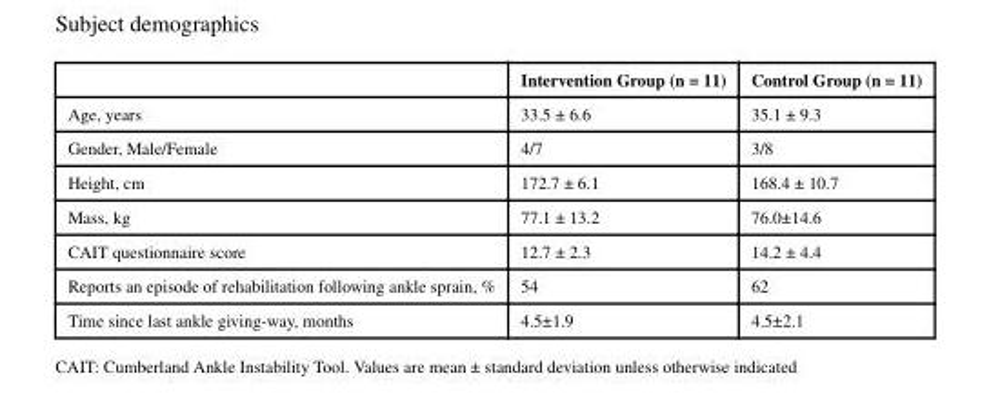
<table><thead><tr><td></td><td>Intervention Group (n = 11)</td><td>Control Group (n = 11)</td></tr></thead><tbody><tr><td>Age, years</td><td>33.5 ± 6.6</td><td>35.1 ± 9.3</td></tr><tr><td>Gender, Male/Female</td><td>4/7</td><td>3/8</td></tr><tr><td>Height, cm</td><td>172.7 ± 6.1</td><td>168.4 ± 10.7</td></tr><tr><td>Mass, kg</td><td>77.1 ± 13.2</td><td>76.0±14.6</td></tr><tr><td>CAIT questionnaire score</td><td>12.7 ± 2.3</td><td>14.2 ± 4.4</td></tr><tr><td>Reports an episode of rehabilitation following ankle sprain, %</td><td>54</td><td>62</td></tr><tr><td>Time since last ankle giving-way, months</td><td>4.5±1.9</td><td>4.5±2.1</td></tr></tbody></table>